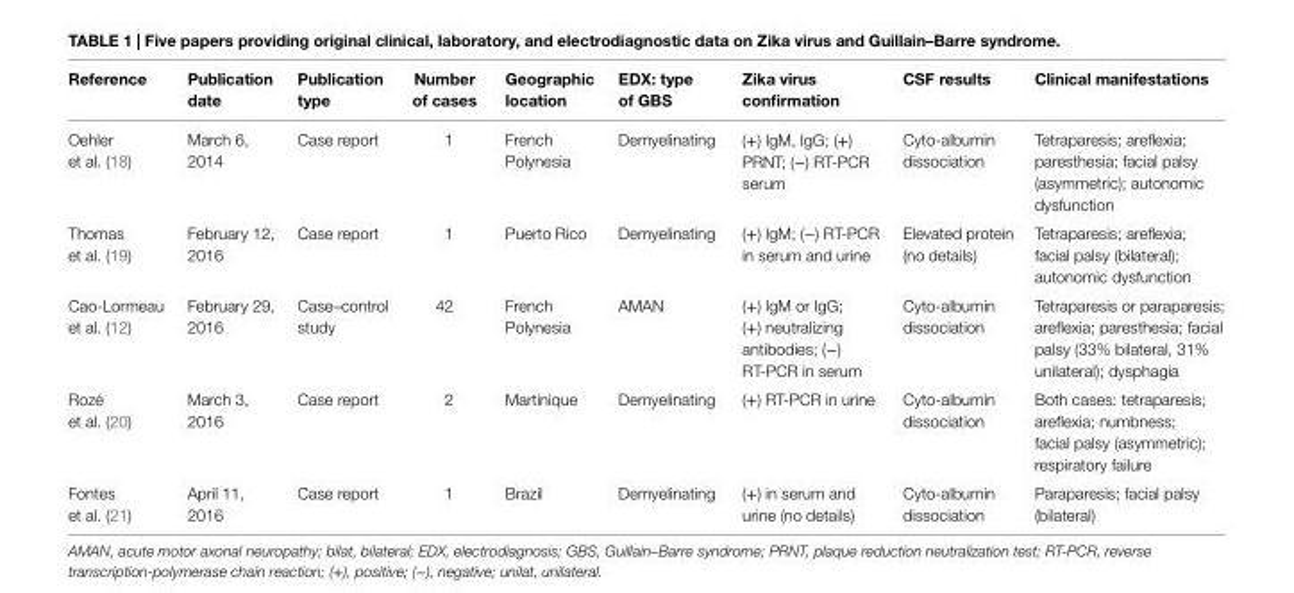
<table><thead><tr><td>reference</td><td>Publication date</td><td>Publication type</td><td>Number of cases</td><td>Geographic location</td><td>eDX: type of GBs</td><td>Zika virus confirmation</td><td>csF results</td><td>clinical manifestations</td></tr></thead><tbody><tr><td>Oehler et al. (18)</td><td>March 6, 2014</td><td>Case report</td><td>1</td><td>French Polynesia</td><td>Demyelinating</td><td>(+) IgM, IgG; (+) PRNT; (−) RT-PCR serum</td><td>Cyto-albumin dissociation</td><td>Tetraparesis; areflexia; paresthesia; facial palsy (asymmetric); autonomic dysfunction</td></tr><tr><td>Thomas et al. (19)</td><td>February 12, 2016</td><td>Case report</td><td>1</td><td>Puerto Rico</td><td>Demyelinating</td><td>(+) IgM; (−) RT-PCR in serum and urine</td><td>Elevated protein (no details)</td><td>Tetraparesis; areflexia; facial palsy (bilateral); autonomic dysfunction</td></tr><tr><td>Cao-Lormeau et al. (12)</td><td>February 29, 2016</td><td>Case–control study</td><td>42</td><td>French Polynesia</td><td>AMAN</td><td>(+) IgM or IgG; (+) neutralizing antibodies; (−) RT-PCR in serum</td><td>Cyto-albumin dissociation</td><td>Tetraparesis or paraparesis; areflexia; paresthesia; facial palsy (33% bilateral, 31% unilateral); dysphagia</td></tr><tr><td>Rozé et al. (20)</td><td>March 3, 2016</td><td>Case report</td><td>2</td><td>Martinique</td><td>Demyelinating</td><td>(+) RT-PCR in urine</td><td>Cyto-albumin dissociation</td><td>Both cases: tetraparesis; areflexia; numbness; facial palsy (asymmetric); respiratory failure</td></tr><tr><td>Fontes et al. (21)</td><td>April 11, 2016</td><td>Case report</td><td>1</td><td>Brazil</td><td>Demyelinating</td><td>(+) in serum and urine (no details)</td><td>Cyto-albumin dissociation</td><td>Paraparesis; facial palsy (bilateral)</td></tr></tbody></table>